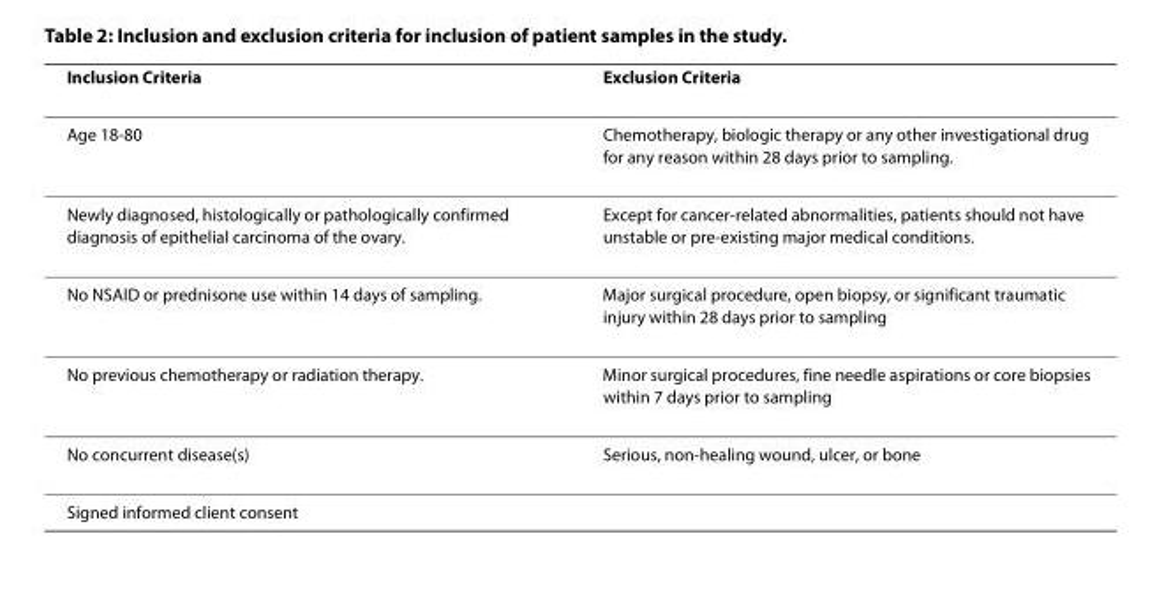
<table><thead><tr><td>Inclusion Criteria</td><td>Exclusion Criteria</td></tr></thead><tbody><tr><td>Age 18-80</td><td>Chemotherapy, biologic therapy or any other investigational drug for any reason within 28 days prior to sampling.</td></tr><tr><td>Newly diagnosed, histologically or pathologically confirmed diagnosis of epithelial carcinoma of the ovary.</td><td>Except for cancer-related abnormalities, patients should not have unstable or pre-existing major medical conditions.</td></tr><tr><td>No NSAID or prednisone use within 14 days of sampling.</td><td>Major surgical procedure, open biopsy, or significant traumatic injury within 28 days prior to sampling</td></tr><tr><td>No previous chemotherapy or radiation therapy.</td><td>Minor surgical procedures, fine needle aspirations or core biopsies within 7 days prior to sampling</td></tr><tr><td>No concurrent disease(s)</td><td>Serious, non-healing wound, ulcer, or bone</td></tr><tr><td colspan="2">Signed informed client consent</td></tr></tbody></table>